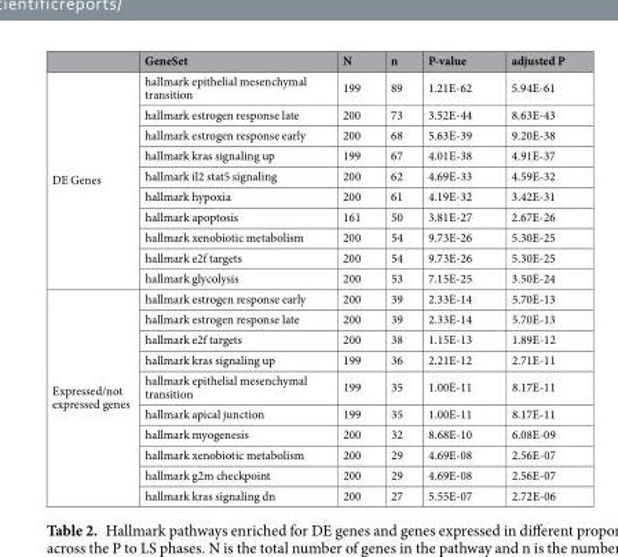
<table><thead><tr><td></td><td>GeneSet</td><td>N</td><td>n</td><td>P-value</td><td>adjusted P</td></tr></thead><tbody><tr><td rowspan="10">DE Genes</td><td>hallmark epithelial mesenchymal transition</td><td>199</td><td>89</td><td>1.21E-62</td><td>5.94E-61</td></tr><tr><td>hallmark estrogen response late</td><td>200</td><td>73</td><td>3.52E-44</td><td>8.63E-43</td></tr><tr><td>hallmark estrogen response early</td><td>200</td><td>68</td><td>5.63E-39</td><td>9.20E-38</td></tr><tr><td>hallmark kras signaling up</td><td>199</td><td>67</td><td>4.01E-38</td><td>4.91E-37</td></tr><tr><td>hallmark il2 stat5 signaling</td><td>200</td><td>62</td><td>4.69E-33</td><td>4.59E-32</td></tr><tr><td>hallmark hypoxia</td><td>200</td><td>61</td><td>4.19E-32</td><td>3.42E-31</td></tr><tr><td>hallmark apoptosis</td><td>161</td><td>50</td><td>3.81E-27</td><td>2.67E-26</td></tr><tr><td>hallmark xenobiotic metabolism</td><td>200</td><td>54</td><td>9.73E-26</td><td>5.30E-25</td></tr><tr><td>hallmark e2f targets</td><td>200</td><td>54</td><td>9.73E-26</td><td>5.30E-25</td></tr><tr><td>hallmark glycolysis</td><td>200</td><td>53</td><td>7.15E-25</td><td>3.50E-24</td></tr><tr><td rowspan="10">Expressed/not expressed genes</td><td>hallmark estrogen response early</td><td>200</td><td>39</td><td>2.33E-14</td><td>5.70E-13</td></tr><tr><td>hallmark estrogen response late</td><td>200</td><td>39</td><td>2.33E-14</td><td>5.70E-13</td></tr><tr><td>hallmark e2f targets</td><td>200</td><td>38</td><td>1.15E-13</td><td>1.89E-12</td></tr><tr><td>hallmark kras signaling up</td><td>199</td><td>36</td><td>2.21E-12</td><td>2.71E-11</td></tr><tr><td>hallmark epithelial mesenchymal transition</td><td>199</td><td>35</td><td>1.00E-11</td><td>8.17E-11</td></tr><tr><td>hallmark apical junction</td><td>199</td><td>35</td><td>1.00E-11</td><td>8.17E-11</td></tr><tr><td>hallmark myogenesis</td><td>200</td><td>32</td><td>8.68E-10</td><td>6.08E-09</td></tr><tr><td>hallmark xenobiotic metabolism</td><td>200</td><td>29</td><td>4.69E-08</td><td>2.56E-07</td></tr><tr><td>hallmark g2m checkpoint</td><td>200</td><td>29</td><td>4.69E-08</td><td>2.56E-07</td></tr><tr><td>hallmark kras signaling dn</td><td>200</td><td>27</td><td>5.55E-07</td><td>2.72E-06</td></tr></tbody></table>